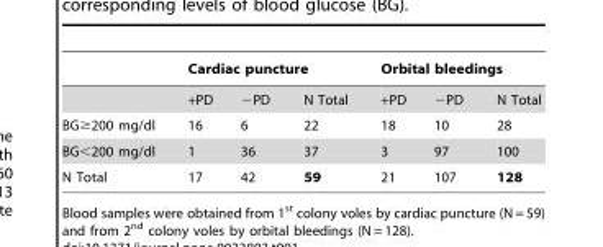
<table><thead><tr><td rowspan="2"></td><td colspan="3">Cardiac puncture</td><td colspan="3">Orbital bleedings</td></tr><tr><td>+PD</td><td>−PD</td><td>N Total</td><td>+PD</td><td>−PD</td><td>N Total</td></tr></thead><tbody><tr><td>BG≥200 mg/dl</td><td>16</td><td>6</td><td>22</td><td>18</td><td>10</td><td>28</td></tr><tr><td>BG&lt;200 mg/dl</td><td>1</td><td>36</td><td>37</td><td>3</td><td>97</td><td>100</td></tr><tr><td>N Total</td><td>17</td><td>42</td><td>59</td><td>21</td><td>107</td><td>128</td></tr></tbody></table>